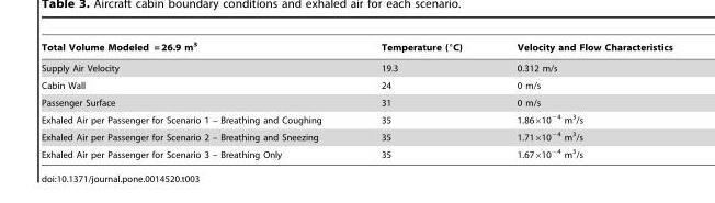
<table><thead><tr><td>Total Volume Modeled = 26.9 m<sup>3</sup></td><td>Temperature (°C)</td><td>Velocity and Flow Characteristics</td></tr></thead><tbody><tr><td>Supply Air Velocity</td><td>19.3</td><td>0.312 m/s</td></tr><tr><td>Cabin Wall</td><td>24</td><td>0 m/s</td></tr><tr><td>Passenger Surface</td><td>31</td><td>0 m/s</td></tr><tr><td>Exhaled Air per Passenger for Scenario 1 – Breathing and Coughing</td><td>35</td><td>1.86×10<sup>−4</sup> m<sup>3</sup>/s</td></tr><tr><td>Exhaled Air per Passenger for Scenario 2 – Breathing and Sneezing</td><td>35</td><td>1.71×10<sup>−4</sup> m<sup>3</sup>/s</td></tr><tr><td>Exhaled Air per Passenger for Scenario 3 – Breathing Only</td><td>35</td><td>1.67×10<sup>−4</sup> m<sup>3</sup>/s</td></tr></tbody></table>